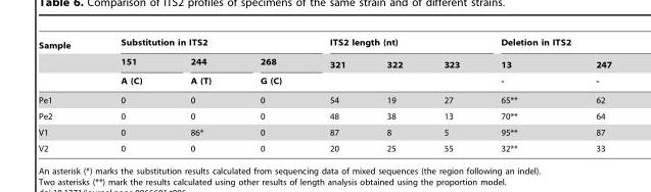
<table><thead><tr><td rowspan="3">Sample</td><td colspan="3">Substitution in ITS2</td><td colspan="3">ITS2 length (nt)</td><td colspan="2">Deletion in ITS2</td></tr><tr><td rowspan="2">151 A (C)</td><td rowspan="2">244 A (T)</td><td rowspan="2">268 G (C)</td><td rowspan="2">321</td><td rowspan="2">322</td><td rowspan="2">323</td><td rowspan="2">13 -</td><td rowspan="2">247 -</td></tr><tr></tr></thead><tbody><tr><td>Pe1</td><td>0</td><td>0</td><td>0</td><td>54</td><td>19</td><td>27</td><td>65**</td><td>62</td></tr><tr><td>Pe2</td><td>0</td><td>0</td><td>0</td><td>48</td><td>38</td><td>13</td><td>70**</td><td>64</td></tr><tr><td>V1</td><td>0</td><td>86*</td><td>0</td><td>87</td><td>8</td><td>5</td><td>95**</td><td>87</td></tr><tr><td>V2</td><td>0</td><td>0</td><td>0</td><td>20</td><td>25</td><td>55</td><td>32**</td><td>33</td></tr></tbody></table>